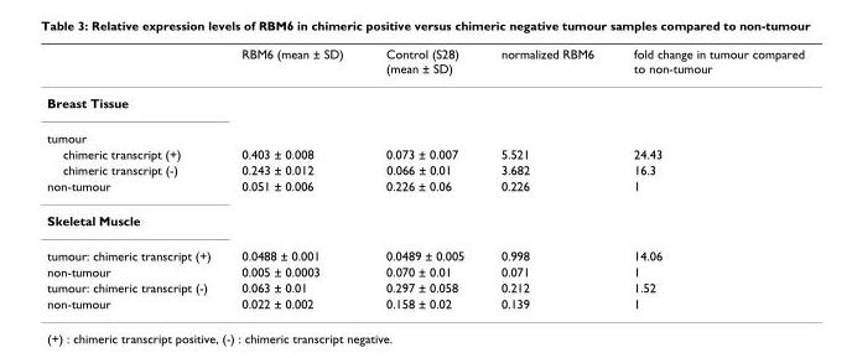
<table><thead><tr><td></td><td>RBM6 (mean ± SD)</td><td>Control (S28) (mean ± SD)</td><td>normalized RBM6</td><td>fold change in tumour compared to non-tumour</td></tr></thead><tbody><tr><td colspan="5">Breast Tissue</td></tr><tr><td colspan="5">tumour</td></tr><tr><td>chimeric transcript (+)</td><td>0.403 ± 0.008</td><td>0.073 ± 0.007</td><td>5.521</td><td>24.43</td></tr><tr><td>chimeric transcript (-)</td><td>0.243 ± 0.012</td><td>0.066 ± 0.01</td><td>3.682</td><td>16.3</td></tr><tr><td>non-tumour</td><td>0.051 ± 0.006</td><td>0.226 ± 0.06</td><td>0.226</td><td>1</td></tr><tr><td colspan="5">Skeletal Muscle</td></tr><tr><td>tumour: chimeric transcript (+)</td><td>0.0488 ± 0.001</td><td>0.0489 ± 0.005</td><td>0.998</td><td>14.06</td></tr><tr><td>non-tumour</td><td>0.005 ± 0.0003</td><td>0.070 ± 0.01</td><td>0.071</td><td>1</td></tr><tr><td>tumour: chimeric transcript (-)</td><td>0.063 ± 0.01</td><td>0.297 ± 0.058</td><td>0.212</td><td>1.52</td></tr><tr><td>non-tumour</td><td>0.022 ± 0.002</td><td>0.158 ± 0.02</td><td>0.139</td><td>1</td></tr></tbody></table>